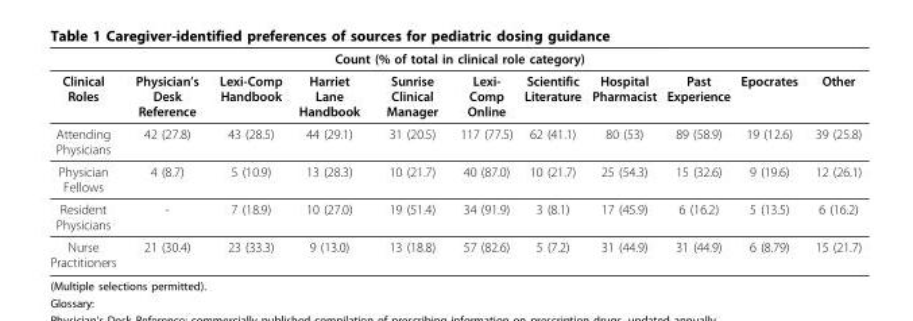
<table><thead><tr><td colspan="11">Count (% of total in clinical role category)</td></tr><tr><td>Clinical Roles</td><td>Physician’s Desk Reference</td><td>Lexi-Comp Handbook</td><td>Harriet Lane Handbook</td><td>Sunrise Clinical Manager</td><td>Lexi- Comp Online</td><td>Scientific Literature</td><td>Hospital Pharmacist</td><td>Past Experience</td><td>Epocrates</td><td>Other</td></tr></thead><tbody><tr><td>Attending Physicians</td><td>42 (27.8)</td><td>43 (28.5)</td><td>44 (29.1)</td><td>31 (20.5)</td><td>117 (77.5)</td><td>62 (41.1)</td><td>80 (53)</td><td>89 (58.9)</td><td>19 (12.6)</td><td>39 (25.8)</td></tr><tr><td>Physician Fellows</td><td>4 (8.7)</td><td>5 (10.9)</td><td>13 (28.3)</td><td>10 (21.7)</td><td>40 (87.0)</td><td>10 (21.7)</td><td>25 (54.3)</td><td>15 (32.6)</td><td>9 (19.6)</td><td>12 (26.1)</td></tr><tr><td>Resident Physicians</td><td>-</td><td>7 (18.9)</td><td>10 (27.0)</td><td>19 (51.4)</td><td>34 (91.9)</td><td>3 (8.1)</td><td>17 (45.9)</td><td>6 (16.2)</td><td>5 (13.5)</td><td>6 (16.2)</td></tr><tr><td>Nurse Practitioners</td><td>21 (30.4)</td><td>23 (33.3)</td><td>9 (13.0)</td><td>13 (18.8)</td><td>57 (82.6)</td><td>5 (7.2)</td><td>31 (44.9)</td><td>31 (44.9)</td><td>6 (8.79)</td><td>15 (21.7)</td></tr></tbody></table>